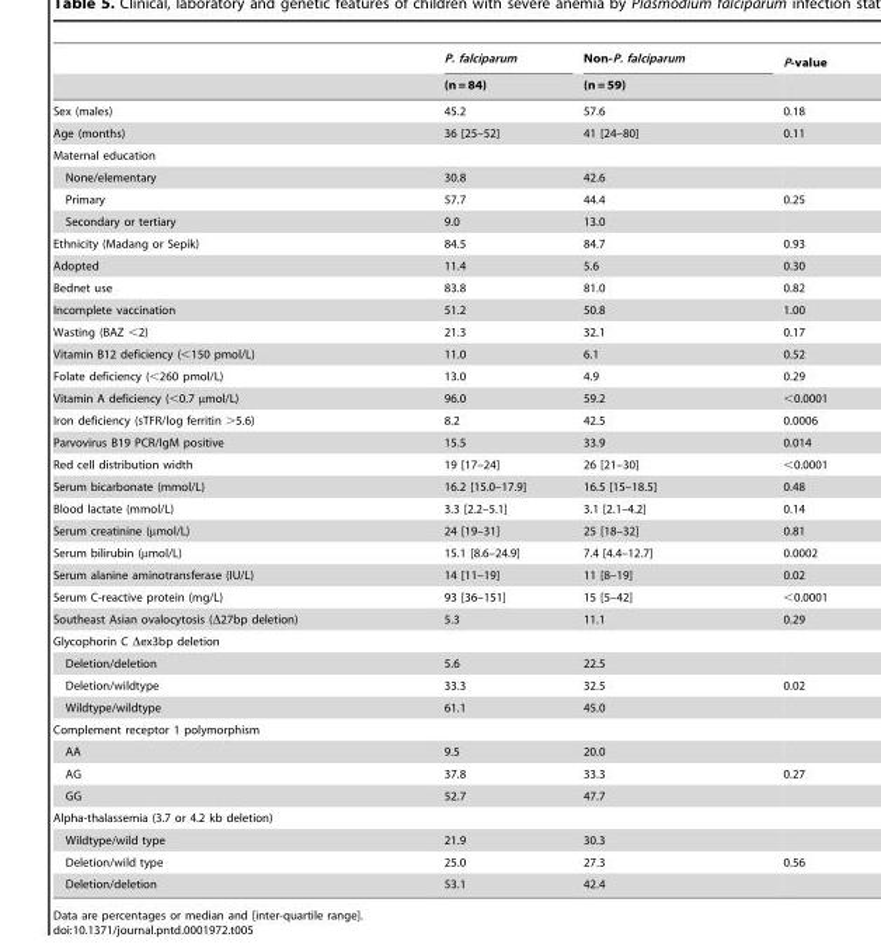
<table><thead><tr><td rowspan="2"></td><td rowspan="2">P. falciparum (n = 84)</td><td rowspan="2">Non-P. falciparum (n = 59)</td><td rowspan="2">P-value</td></tr><tr></tr></thead><tbody><tr><td>Sex (males)</td><td>45.2</td><td>57.6</td><td>0.18</td></tr><tr><td>Age (months)</td><td>36 [25–52]</td><td>41 [24–80]</td><td>0.11</td></tr><tr><td colspan="4">Maternal education</td></tr><tr><td>None/elementary</td><td>30.8</td><td>42.6</td><td></td></tr><tr><td>Primary</td><td>57.7</td><td>44.4</td><td>0.25</td></tr><tr><td>Secondary or tertiary</td><td>9.0</td><td>13.0</td><td></td></tr><tr><td>Ethnicity (Madang or Sepik)</td><td>84.5</td><td>84.7</td><td>0.93</td></tr><tr><td>Adopted</td><td>11.4</td><td>5.6</td><td>0.30</td></tr><tr><td>Bednet use</td><td>83.8</td><td>81.0</td><td>0.82</td></tr><tr><td>Incomplete vaccination</td><td>51.2</td><td>50.8</td><td>1.00</td></tr><tr><td>Wasting (BAZ &lt;2)</td><td>21.3</td><td>32.1</td><td>0.17</td></tr><tr><td>Vitamin B12 deficiency (&lt;150 pmol/L)</td><td>11.0</td><td>6.1</td><td>0.52</td></tr><tr><td>Folate deficiency (&lt;260 pmol/L)</td><td>13.0</td><td>4.9</td><td>0.29</td></tr><tr><td>Vitamin A deficiency (&lt;0.7 µmol/L)</td><td>96.0</td><td>59.2</td><td>&lt;0.0001</td></tr><tr><td>Iron deficiency (sTFR/log ferritin &gt;5.6)</td><td>8.2</td><td>42.5</td><td>0.0006</td></tr><tr><td>Parvovirus B19 PCR/IgM positive</td><td>15.5</td><td>33.9</td><td>0.014</td></tr><tr><td>Red cell distribution width</td><td>19 [17–24]</td><td>26 [21–30]</td><td>&lt;0.0001</td></tr><tr><td>Serum bicarbonate (mmol/L)</td><td>16.2 [15.0–17.9]</td><td>16.5 [15–18.5]</td><td>0.48</td></tr><tr><td>Blood lactate (mmol/L)</td><td>3.3 [2.2–5.1]</td><td>3.1 [2.1–4.2]</td><td>0.14</td></tr><tr><td>Serum creatinine (µmol/L)</td><td>24 [19–31]</td><td>25 [18–32]</td><td>0.81</td></tr><tr><td>Serum bilirubin (µmol/L)</td><td>15.1 [8.6–24.9]</td><td>7.4 [4.4–12.7]</td><td>0.0002</td></tr><tr><td>Serum alanine aminotransferase (IU/L)</td><td>14 [11–19]</td><td>11 [8–19]</td><td>0.02</td></tr><tr><td>Serum C-reactive protein (mg/L)</td><td>93 [36–151]</td><td>15 [5–42]</td><td>&lt;0.0001</td></tr><tr><td>Southeast Asian ovalocytosis (Δ27bp deletion)</td><td>5.3</td><td>11.1</td><td>0.29</td></tr><tr><td colspan="4">Glycophorin C Δex3bp deletion</td></tr><tr><td>Deletion/deletion</td><td>5.6</td><td>22.5</td><td></td></tr><tr><td>Deletion/wildtype</td><td>33.3</td><td>32.5</td><td>0.02</td></tr><tr><td>Wildtype/wildtype</td><td>61.1</td><td>45.0</td><td></td></tr><tr><td colspan="4">Complement receptor 1 polymorphism</td></tr><tr><td>AA</td><td>9.5</td><td>20.0</td><td></td></tr><tr><td>AG</td><td>37.8</td><td>33.3</td><td>0.27</td></tr><tr><td>GG</td><td>52.7</td><td>47.7</td><td></td></tr><tr><td colspan="4">Alpha-thalassemia (3.7 or 4.2 kb deletion)</td></tr><tr><td>Wildtype/wild type</td><td>21.9</td><td>30.3</td><td></td></tr><tr><td>Deletion/wild type</td><td>25.0</td><td>27.3</td><td>0.56</td></tr><tr><td>Deletion/deletion</td><td>53.1</td><td>42.4</td><td></td></tr></tbody></table>